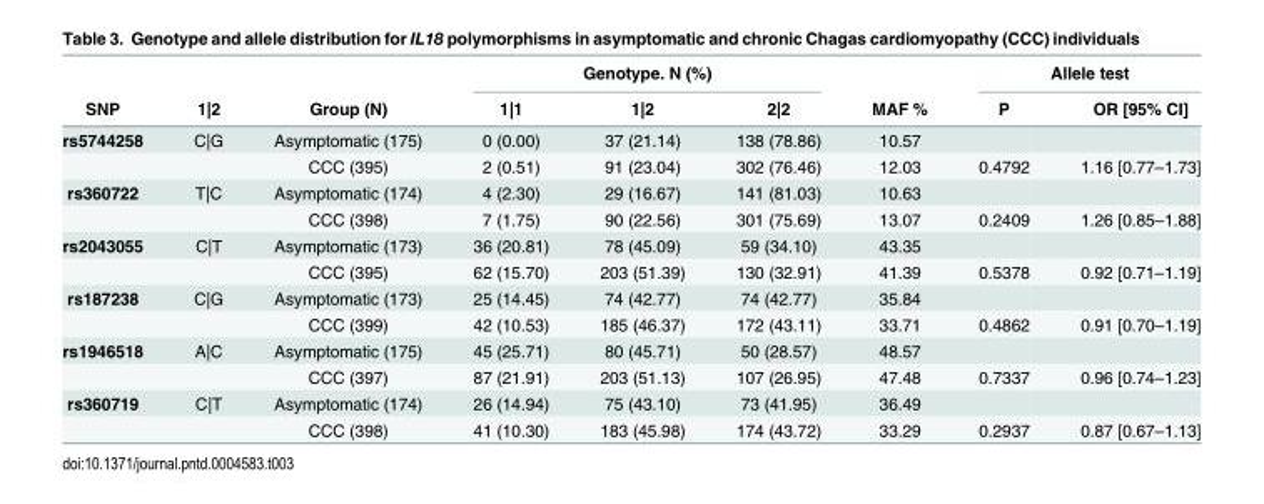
<table><thead><tr><td rowspan="2">SNP</td><td rowspan="2">1|2</td><td rowspan="2">Group (N)</td><td colspan="3">Genotype. N (%)</td><td rowspan="2">MAF %</td><td colspan="2">Allele test</td></tr><tr><td>1|1</td><td>1|2</td><td>2|2</td><td>P</td><td>OR [95% CI]</td></tr></thead><tbody><tr><td rowspan="2">rs5744258</td><td>C|G</td><td>Asymptomatic (175)</td><td>0 (0.00)</td><td>37 (21.14)</td><td>138 (78.86)</td><td>10.57</td><td></td><td></td></tr><tr><td></td><td>CCC (395)</td><td>2 (0.51)</td><td>91 (23.04)</td><td>302 (76.46)</td><td>12.03</td><td>0.4792</td><td>1.16 [0.77–1.73]</td></tr><tr><td rowspan="2">rs360722</td><td>T|C</td><td>Asymptomatic (174)</td><td>4 (2.30)</td><td>29 (16.67)</td><td>141 (81.03)</td><td>10.63</td><td></td><td></td></tr><tr><td></td><td>CCC (398)</td><td>7 (1.75)</td><td>90 (22.56)</td><td>301 (75.69)</td><td>13.07</td><td>0.2409</td><td>1.26 [0.85–1.88]</td></tr><tr><td rowspan="2">rs2043055</td><td>C|T</td><td>Asymptomatic (173)</td><td>36 (20.81)</td><td>78 (45.09)</td><td>59 (34.10)</td><td>43.35</td><td></td><td></td></tr><tr><td></td><td>CCC (395)</td><td>62 (15.70)</td><td>203 (51.39)</td><td>130 (32.91)</td><td>41.39</td><td>0.5378</td><td>0.92 [0.71–1.19]</td></tr><tr><td rowspan="2">rs187238</td><td>C|G</td><td>Asymptomatic (173)</td><td>25 (14.45)</td><td>74 (42.77)</td><td>74 (42.77)</td><td>35.84</td><td></td><td></td></tr><tr><td></td><td>CCC (399)</td><td>42 (10.53)</td><td>185 (46.37)</td><td>172 (43.11)</td><td>33.71</td><td>0.4862</td><td>0.91 [0.70–1.19]</td></tr><tr><td rowspan="2">rs1946518</td><td>A|C</td><td>Asymptomatic (175)</td><td>45 (25.71)</td><td>80 (45.71)</td><td>50 (28.57)</td><td>48.57</td><td></td><td></td></tr><tr><td></td><td>CCC (397)</td><td>87 (21.91)</td><td>203 (51.13)</td><td>107 (26.95)</td><td>47.48</td><td>0.7337</td><td>0.96 [0.74–1.23]</td></tr><tr><td rowspan="2">rs360719</td><td>C|T</td><td>Asymptomatic (174)</td><td>26 (14.94)</td><td>75 (43.10)</td><td>73 (41.95)</td><td>36.49</td><td></td><td></td></tr><tr><td></td><td>CCC (398)</td><td>41 (10.30)</td><td>183 (45.98)</td><td>174 (43.72)</td><td>33.29</td><td>0.2937</td><td>0.87 [0.67–1.13]</td></tr></tbody></table>